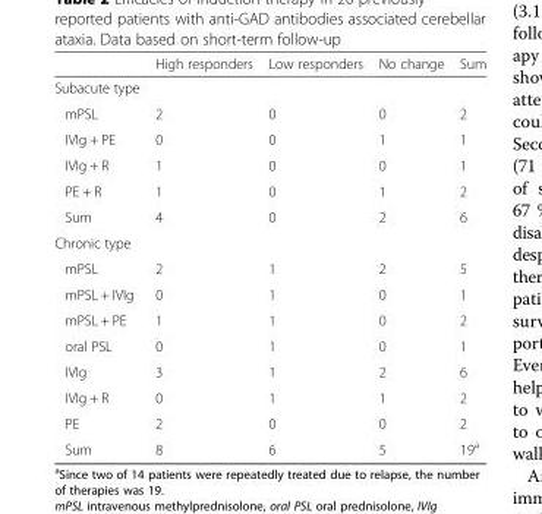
<table><thead><tr><td></td><td>High responders</td><td>Low responders</td><td>No change</td><td>Sum</td></tr></thead><tbody><tr><td colspan="5">Subacute type</td></tr><tr><td>mPSL</td><td>2</td><td>0</td><td>0</td><td>2</td></tr><tr><td>IVIg + PE</td><td>0</td><td>0</td><td>1</td><td>1</td></tr><tr><td>IVIg + R</td><td>1</td><td>0</td><td>0</td><td>1</td></tr><tr><td>PE + R</td><td>1</td><td>0</td><td>1</td><td>2</td></tr><tr><td>Sum</td><td>4</td><td>0</td><td>2</td><td>6</td></tr><tr><td colspan="5">Chronic type</td></tr><tr><td>mPSL</td><td>2</td><td>1</td><td>2</td><td>5</td></tr><tr><td>mPSL + IVIg</td><td>0</td><td>1</td><td>0</td><td>1</td></tr><tr><td>mPSL + PE</td><td>1</td><td>1</td><td>0</td><td>2</td></tr><tr><td>oral PSL</td><td>0</td><td>1</td><td>0</td><td>1</td></tr><tr><td>IVIg</td><td>3</td><td>1</td><td>2</td><td>6</td></tr><tr><td>IVIg + R</td><td>0</td><td>1</td><td>1</td><td>2</td></tr><tr><td>PE</td><td>2</td><td>0</td><td>0</td><td>2</td></tr><tr><td>Sum</td><td>8</td><td>6</td><td>5</td><td>19<sup>a</sup></td></tr></tbody></table>